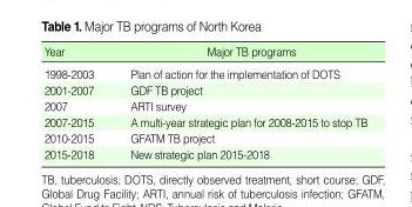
<table><thead><tr><td>Year</td><td>Major TB programs</td></tr></thead><tbody><tr><td>1998-2003</td><td>Plan of action for the implementation of DOTS</td></tr><tr><td>2001-2007</td><td>GDF TB project</td></tr><tr><td>2007</td><td>ARTI survey</td></tr><tr><td>2007-2015</td><td>A multi-year strategic plan for 2008-2015 to stop TB</td></tr><tr><td>2010-2015</td><td>GFATM TB project</td></tr><tr><td>2015-2018</td><td>New strategic plan 2015-2018</td></tr></tbody></table>